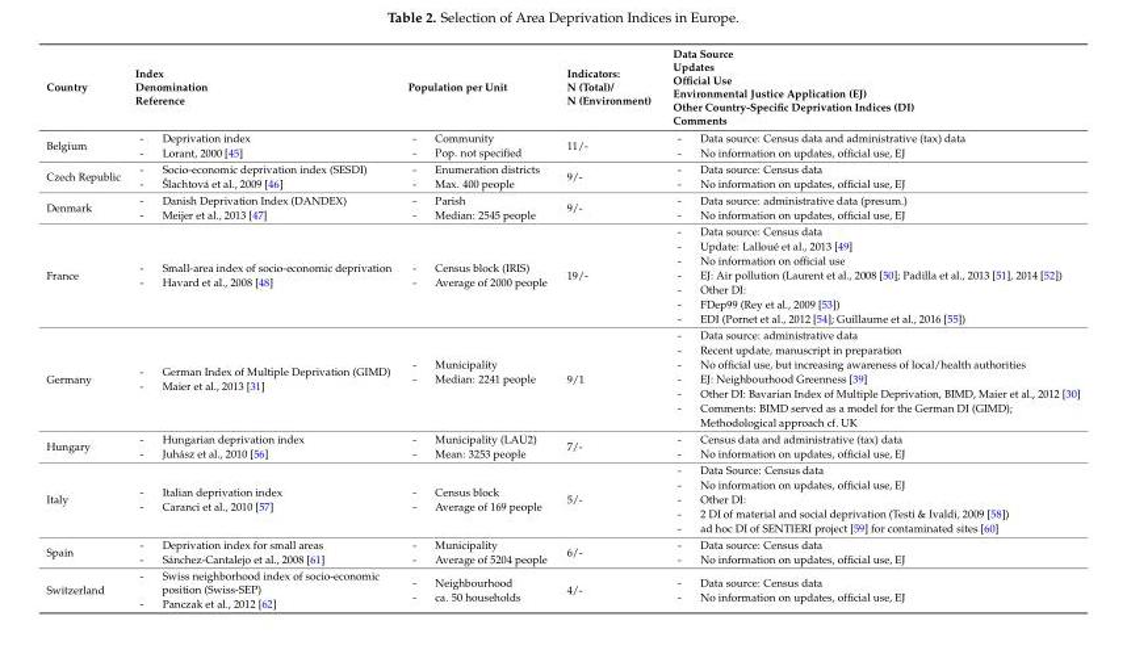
<table><thead><tr><td>Country</td><td>Index Denomination Reference</td><td>Population per Unit</td><td>Indicators: N (Total)/ N (Environment)</td><td>Data Source Updates Official Use Environmental Justice Application (EJ) Other Country-Specific Deprivation Indices (DI) Comments</td></tr></thead><tbody><tr><td>Belgium</td><td>- Deprivation index - Lorant, 2000 [45]</td><td>- Community - Pop. not specified</td><td>11/-</td><td>- Data source: Census data and administrative (tax) data - No information on updates, official use, EJ</td></tr><tr><td>Czech Republic</td><td>- Socio-economic deprivation index (SESDI) - Šlachtová et al., 2009 [46]</td><td>- Enumeration districts - Max. 400 people</td><td>9/-</td><td>- Data source: Census data - No information on updates, official use, EJ</td></tr><tr><td>Denmark</td><td>- Danish Deprivation Index (DANDEX) - Meijer et al., 2013 [47]</td><td>- Parish - Median: 2545 people</td><td>9/-</td><td>- Data source: administrative data (presum.) - No information on updates, official use, EJ</td></tr><tr><td>France</td><td>- Small-area index of socio-economic deprivation - Havard et al., 2008 [48]</td><td>- Census block (IRIS) - Average of 2000 people</td><td>19/-</td><td>- Data source: Census data - Update: Lalloué et al., 2013 [49] - No information on official use - EJ: Air pollution (Laurent et al., 2008 [50]; Padilla et al., 2013 [51], 2014 [52]) - Other DI: - FDep99 (Rey et al., 2009 [53]) - EDI (Pornet et al., 2012 [54]; Guillaume et al., 2016 [55])</td></tr><tr><td>Germany</td><td>- German Index of Multiple Deprivation (GIMD) - Maier et al., 2013 [31]</td><td>- Municipality - Median: 2241 people</td><td>9/1</td><td>- Data source: administrative data - Recent update, manuscript in preparation - No official use, but increasing awareness of local/health authorities - EJ: Neighbourhood Greenness [39] - Other DI: Bavarian Index of Multiple Deprivation, BIMD, Maier et al., 2012 [30] - Comments: BIMD served as a model for the German DI (GIMD); Methodological approach cf. UK</td></tr><tr><td>Hungary</td><td>- Hungarian deprivation index - Juhász et al., 2010 [56]</td><td>- Municipality (LAU2) - Mean: 3253 people</td><td>7/-</td><td>- Census data and administrative (tax) data - No information on updates, official use, EJ</td></tr><tr><td>Italy</td><td>- Italian deprivation index - Caranci et al., 2010 [57]</td><td>- Census block - Average of 169 people</td><td>5/-</td><td>- Data Source: Census data - No information on updates, official use, EJ - Other DI: - 2 DI of material and social deprivation (Testi &amp; Ivaldi, 2009 [58]) - ad hoc DI of SENTIERI project [59] for contaminated sites [60]</td></tr><tr><td>Spain</td><td>- Deprivation index for small areas - Sánchez-Cantalejo et al., 2008 [61]</td><td>- Municipality - Average of 5204 people</td><td>6/-</td><td>- Data source: Census data - No information on updates, official use, EJ</td></tr><tr><td>Switzerland</td><td>- Swiss neighborhood index of socio-economic position (Swiss-SEP) - Panczak et al., 2012 [62]</td><td>- Neighbourhood - ca. 50 households</td><td>4/-</td><td>- Data source: Census data - No information on updates, official use, EJ</td></tr></tbody></table>